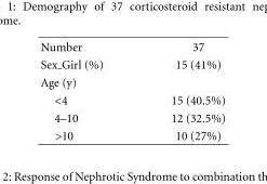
<table><tbody><tr><td>Number</td><td>37</td></tr><tr><td>Sex Girl (%)</td><td>15 (41%)</td></tr><tr><td colspan="2">Age (y)</td></tr><tr><td>&lt;4</td><td>15 (40.5%)</td></tr><tr><td>4–10</td><td>12 (32.5%)</td></tr><tr><td>&gt;10</td><td>10 (27%)</td></tr></tbody></table>